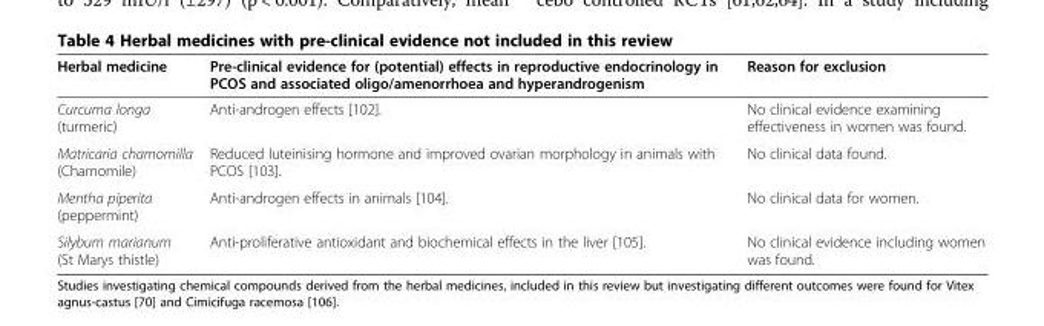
<table><thead><tr><td>Herbal medicine</td><td>Pre-clinical evidence for (potential) effects in reproductive endocrinology in PCOS and associated oligo/amenorrhoea and hyperandrogenism</td><td>Reason for exclusion</td></tr></thead><tbody><tr><td>Curcuma longa (turmeric)</td><td>Anti-androgen effects [102].</td><td>No clinical evidence examining effectiveness in women was found.</td></tr><tr><td>Matricaria chamomilla (Chamomile)</td><td>Reduced luteinising hormone and improved ovarian morphology in animals with PCOS [103].</td><td>No clinical data found.</td></tr><tr><td>Mentha piperita (peppermint)</td><td>Anti-androgen effects in animals [104].</td><td>No clinical data for women.</td></tr><tr><td>Silybum marianum (St Marys thistle)</td><td>Anti-proliferative antioxidant and biochemical effects in the liver [105].</td><td>No clinical evidence including women was found.</td></tr></tbody></table>